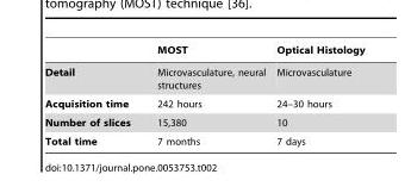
<table><thead><tr><td></td><td>MOST</td><td>Optical Histology</td></tr></thead><tbody><tr><td>Detail</td><td>Microvasculature, neural structures</td><td>Microvasculature</td></tr><tr><td>Acquisition time</td><td>242 hours</td><td>24–30 hours</td></tr><tr><td>Number of slices</td><td>15,380</td><td>10</td></tr><tr><td>Total time</td><td>7 months</td><td>7 days</td></tr></tbody></table>